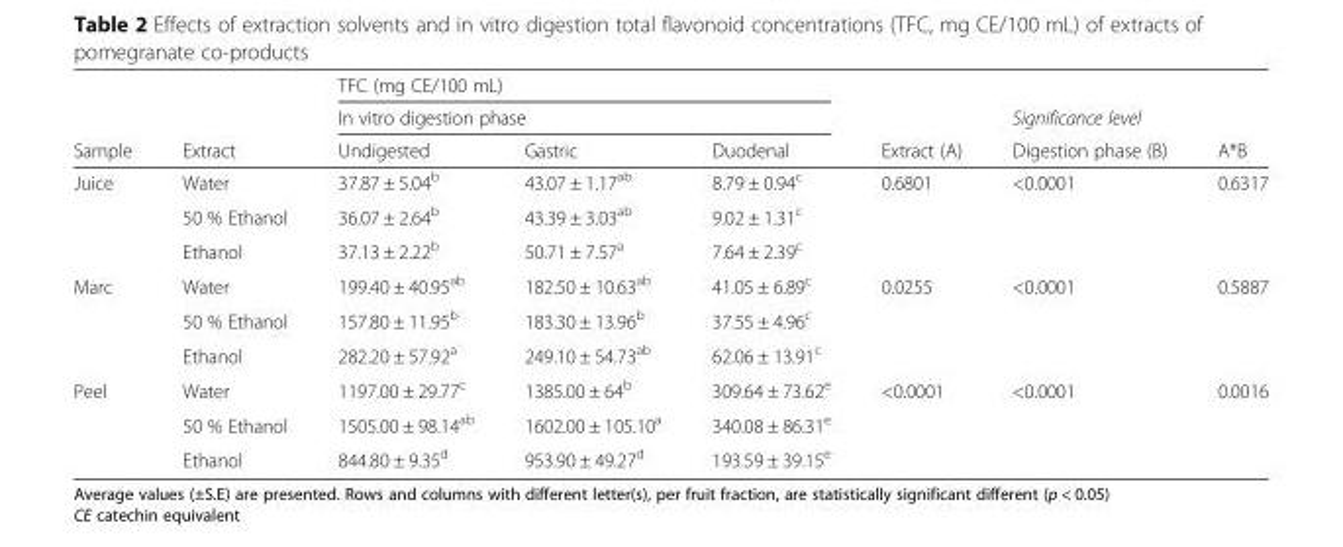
<table><thead><tr><td rowspan="3">Sample</td><td rowspan="3">Extract</td><td rowspan="2" colspan="3">TFC (mg CE/100 mL) In vitro digestion phase</td><td rowspan="3">Extract (A)</td><td rowspan="3">Significance level Digestion phase (B)</td><td rowspan="3">A*B</td></tr><tr></tr><tr><td>Undigested</td><td>Gastric</td><td>Duodenal</td></tr></thead><tbody><tr><td rowspan="3">Juice</td><td>Water</td><td>37.87 ± 5.04<sup>b</sup></td><td>43.07 ± 1.17<sup>ab</sup></td><td>8.79 ± 0.94<sup>c</sup></td><td>0.6801</td><td>&lt;0.0001</td><td>0.6317</td></tr><tr><td>50 % Ethanol</td><td>36.07 ± 2.64<sup>b</sup></td><td>43.39 ± 3.03<sup>ab</sup></td><td>9.02 ± 1.31<sup>c</sup></td><td></td><td></td><td></td></tr><tr><td>Ethanol</td><td>37.13 ± 2.22<sup>b</sup></td><td>50.71 ± 7.57<sup>a</sup></td><td>7.64 ± 2.39<sup>c</sup></td><td></td><td></td><td></td></tr><tr><td rowspan="3">Marc</td><td>Water</td><td>199.40 ± 40.95<sup>ab</sup></td><td>182.50 ± 10.63<sup>ab</sup></td><td>41.05 ± 6.89<sup>c</sup></td><td>0.0255</td><td>&lt;0.0001</td><td>0.5887</td></tr><tr><td>50 % Ethanol</td><td>157.80 ± 11.95<sup>b</sup></td><td>183.30 ± 13.96<sup>b</sup></td><td>37.55 ± 4.96<sup>c</sup></td><td></td><td></td><td></td></tr><tr><td>Ethanol</td><td>282.20 ± 57.92<sup>a</sup></td><td>249.10 ± 54.73<sup>ab</sup></td><td>62.06 ± 13.91<sup>c</sup></td><td></td><td></td><td></td></tr><tr><td rowspan="3">Peel</td><td>Water</td><td>1197.00 ± 29.77<sup>c</sup></td><td>1385.00 ± 64<sup>b</sup></td><td>309.64 ± 73.62<sup>e</sup></td><td>&lt;0.0001</td><td>&lt;0.0001</td><td>0.0016</td></tr><tr><td>50 % Ethanol</td><td>1505.00 ± 98.14<sup>ab</sup></td><td>1602.00 ± 105.10<sup>a</sup></td><td>340.08 ± 86.31<sup>e</sup></td><td></td><td></td><td></td></tr><tr><td>Ethanol</td><td>844.80 ± 9.35<sup>d</sup></td><td>953.90 ± 49.27<sup>d</sup></td><td>193.59 ± 39.15<sup>e</sup></td><td></td><td></td><td></td></tr></tbody></table>